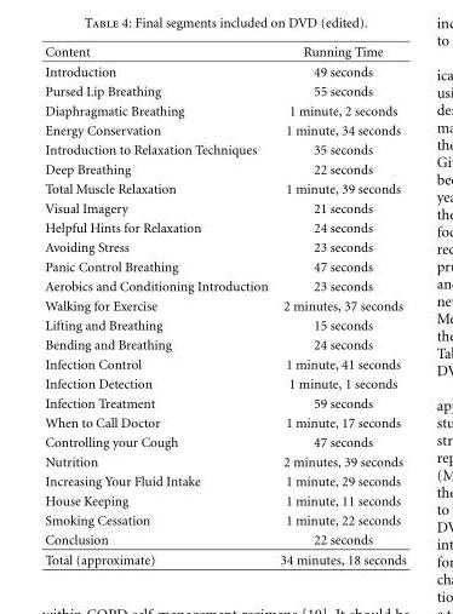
<table><thead><tr><td>Content</td><td>Running Time</td></tr></thead><tbody><tr><td>Introduction</td><td>49 seconds</td></tr><tr><td>Pursed Lip Breathing</td><td>55 seconds</td></tr><tr><td>Diaphragmatic Breathing</td><td>1 minute, 2 seconds</td></tr><tr><td>Energy Conservation</td><td>1 minute, 34 seconds</td></tr><tr><td>Introduction to Relaxation Techniques</td><td>35 seconds</td></tr><tr><td>Deep Breathing</td><td>22 seconds</td></tr><tr><td>Total Muscle Relaxation</td><td>1 minute, 39 seconds</td></tr><tr><td>Visual Imagery</td><td>21 seconds</td></tr><tr><td>Helpful Hints for Relaxation</td><td>24 seconds</td></tr><tr><td>Avoiding Stress</td><td>23 seconds</td></tr><tr><td>Panic Control Breathing</td><td>47 seconds</td></tr><tr><td>Aerobics and Conditioning Introduction</td><td>23 seconds</td></tr><tr><td>Walking for Exercise</td><td>2 minutes, 37 seconds</td></tr><tr><td>Lifting and Breathing</td><td>15 seconds</td></tr><tr><td>Bending and Breathing</td><td>24 seconds</td></tr><tr><td>Infection Control</td><td>1 minute, 41 seconds</td></tr><tr><td>Infection Detection</td><td>1 minute, 1 seconds</td></tr><tr><td>Infection Treatment</td><td>59 seconds</td></tr><tr><td>When to Call Doctor</td><td>1 minute, 17 seconds</td></tr><tr><td>Controlling your Cough</td><td>47 seconds</td></tr><tr><td>Nutrition</td><td>2 minutes, 39 seconds</td></tr><tr><td>Increasing Your Fluid Intake</td><td>1 minute, 29 seconds</td></tr><tr><td>House Keeping</td><td>1 minute, 11 seconds</td></tr><tr><td>Smoking Cessation</td><td>1 minute, 22 seconds</td></tr><tr><td>Conclusion</td><td>22 seconds</td></tr><tr><td>Total (approximate)</td><td>34 minutes, 18 seconds</td></tr></tbody></table>